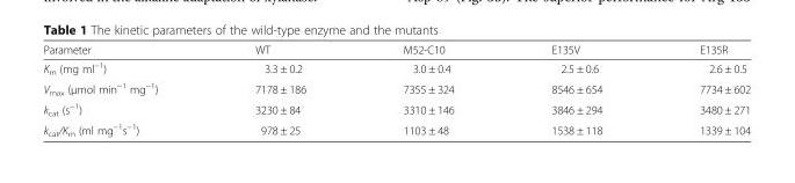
<table><thead><tr><td>Parameter</td><td>WT</td><td>M52-C10</td><td>E135V</td><td>E135R</td></tr></thead><tbody><tr><td>K<sub>m</sub> (mg ml<sup>−1</sup>)</td><td>3.3 ± 0.2</td><td>3.0 ± 0.4</td><td>2.5 ± 0.6</td><td>2.6 ± 0.5</td></tr><tr><td>V<sub>max</sub> (μmol min<sup>−1</sup> mg<sup>−1</sup>)</td><td>7178 ± 186</td><td>7355 ± 324</td><td>8546 ± 654</td><td>7734 ± 602</td></tr><tr><td>k<sub>cat</sub> (s<sup>−1</sup>)</td><td>3230 ± 84</td><td>3310 ± 146</td><td>3846 ± 294</td><td>3480 ± 271</td></tr><tr><td>k<sub>cat</sub>/K<sub>m</sub> (ml mg<sup>−1</sup>s<sup>−1</sup>)</td><td>978 ± 25</td><td>1103 ± 48</td><td>1538 ± 118</td><td>1339 ± 104</td></tr></tbody></table>